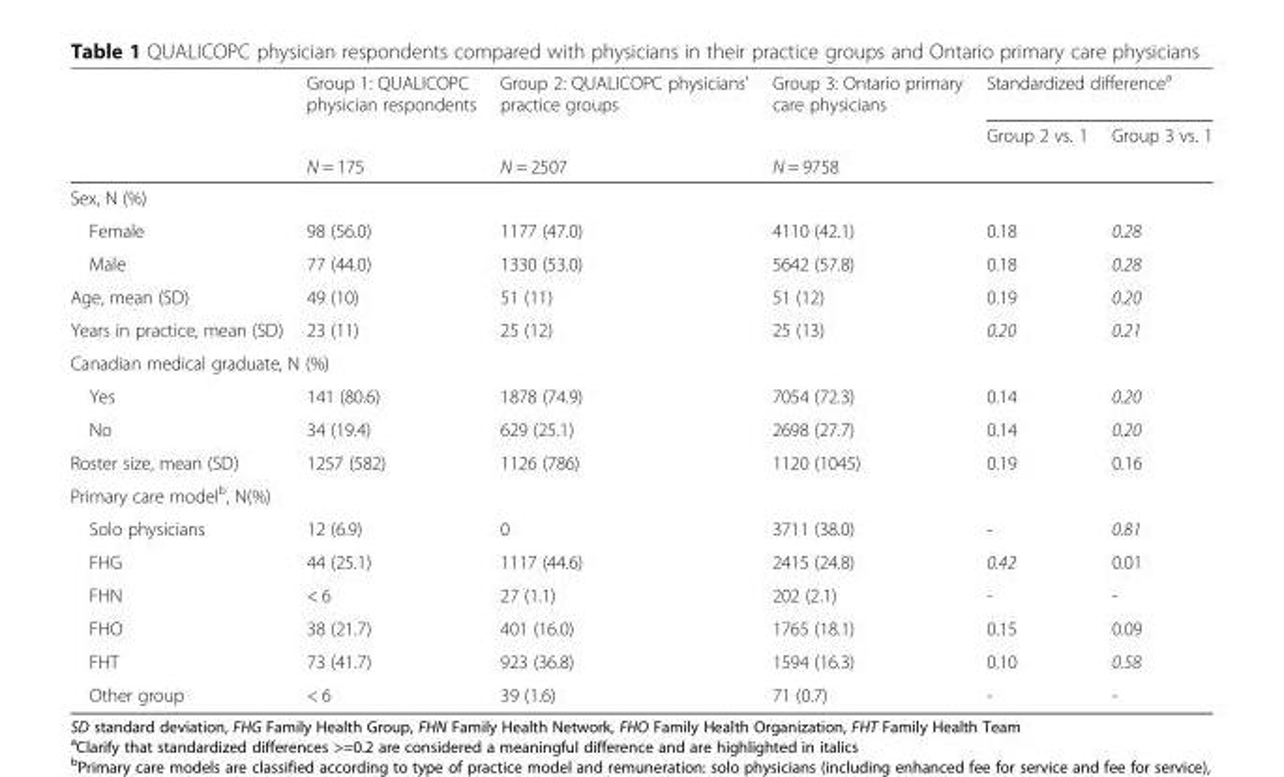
<table><thead><tr><td rowspan="3"></td><td rowspan="3">Group 1: QUALICOPC physician respondents N = 175</td><td rowspan="3">Group 2: QUALICOPC physicians’ practice groups N = 2507</td><td rowspan="3">Group 3: Ontario primary care physicians N = 9758</td><td colspan="2">Standardized difference<sup>a</sup></td></tr><tr><td rowspan="2">Group 2 vs. 1</td><td rowspan="2">Group 3 vs. 1</td></tr><tr></tr></thead><tbody><tr><td colspan="6">Sex, N (%)</td></tr><tr><td>Female</td><td>98 (56.0)</td><td>1177 (47.0)</td><td>4110 (42.1)</td><td>0.18</td><td>0.28</td></tr><tr><td>Male</td><td>77 (44.0)</td><td>1330 (53.0)</td><td>5642 (57.8)</td><td>0.18</td><td>0.28</td></tr><tr><td>Age, mean (SD)</td><td>49 (10)</td><td>51 (11)</td><td>51 (12)</td><td>0.19</td><td>0.20</td></tr><tr><td>Years in practice, mean (SD)</td><td>23 (11)</td><td>25 (12)</td><td>25 (13)</td><td>0.20</td><td>0.21</td></tr><tr><td colspan="6">Canadian medical graduate, N (%)</td></tr><tr><td>Yes</td><td>141 (80.6)</td><td>1878 (74.9)</td><td>7054 (72.3)</td><td>0.14</td><td>0.20</td></tr><tr><td>No</td><td>34 (19.4)</td><td>629 (25.1)</td><td>2698 (27.7)</td><td>0.14</td><td>0.20</td></tr><tr><td>Roster size, mean (SD)</td><td>1257 (582)</td><td>1126 (786)</td><td>1120 (1045)</td><td>0.19</td><td>0.16</td></tr><tr><td colspan="6">Primary care model<sup>b</sup>, N(%)</td></tr><tr><td>Solo physicians</td><td>12 (6.9)</td><td>0</td><td>3711 (38.0)</td><td>-</td><td>0.81</td></tr><tr><td>FHG</td><td>44 (25.1)</td><td>1117 (44.6)</td><td>2415 (24.8)</td><td>0.42</td><td>0.01</td></tr><tr><td>FHN</td><td>&lt; 6</td><td>27 (1.1)</td><td>202 (2.1)</td><td>-</td><td>-</td></tr><tr><td>FHO</td><td>38 (21.7)</td><td>401 (16.0)</td><td>1765 (18.1)</td><td>0.15</td><td>0.09</td></tr><tr><td>FHT</td><td>73 (41.7)</td><td>923 (36.8)</td><td>1594 (16.3)</td><td>0.10</td><td>0.58</td></tr><tr><td>Other group</td><td>&lt; 6</td><td>39 (1.6)</td><td>71 (0.7)</td><td>-</td><td>-</td></tr></tbody></table>